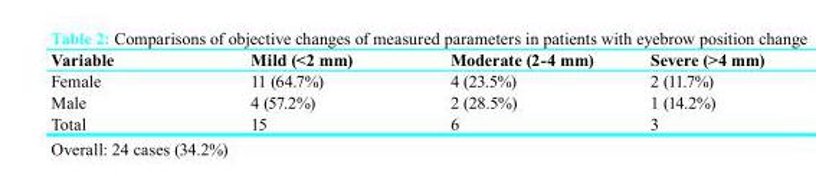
<table><thead><tr><td>Variable</td><td>Mild (&lt;2 mm)</td><td>Moderate (2-4 mm)</td><td>Severe (&gt;4 mm)</td></tr></thead><tbody><tr><td>Female</td><td>11 (64.7%)</td><td>4 (23.5%)</td><td>2 (11.7%)</td></tr><tr><td>Male</td><td>4 (57.2%)</td><td>2 (28.5%)</td><td>1 (14.2%)</td></tr><tr><td>Total</td><td>15</td><td>6</td><td>3</td></tr></tbody></table>